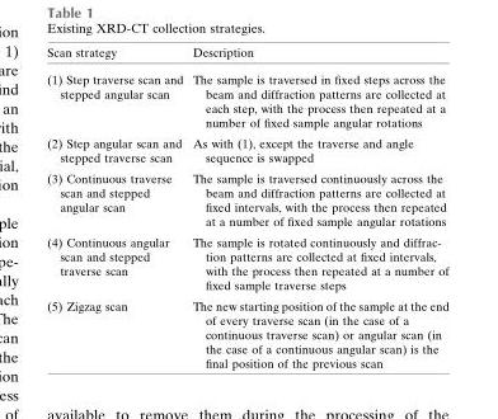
<table><thead><tr><td>Scan strategy</td><td>Description</td></tr></thead><tbody><tr><td>(1) Step traverse scan and stepped angular scan</td><td>The sample is traversed in fixed steps across the beam and diffraction patterns are collected at each step, with the process then repeated at a number of fixed sample angular rotations</td></tr><tr><td>(2) Step angular scan and stepped traverse scan</td><td>As with (1), except the traverse and angle sequence is swapped</td></tr><tr><td>(3) Continuous traverse scan and stepped angular scan</td><td>The sample is traversed continuously across the beam and diffraction patterns are collected at fixed intervals, with the process then repeated at a number of fixed sample angular rotations</td></tr><tr><td>(4) Continuous angular scan and stepped traverse scan</td><td>The sample is rotated continuously and diffrac- tion patterns are collected at fixed intervals, with the process then repeated at a number of fixed sample traverse steps</td></tr><tr><td>(5) Zigzag scan</td><td>The new starting position of the sample at the end of every traverse scan (in the case of a continuous traverse scan) or angular scan (in the case of a continuous angular scan) is the final position of the previous scan</td></tr></tbody></table>